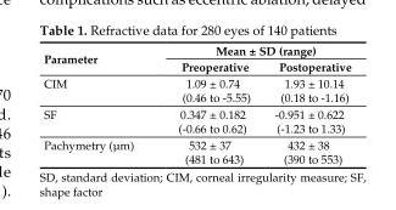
<table><thead><tr><td rowspan="2">Parameter</td><td colspan="2">Mean ± SD (range)</td></tr><tr><td>Preoperative</td><td>Postoperative</td></tr></thead><tbody><tr><td>CIM</td><td>1.09 ± 0.74 (0.46 to -5.55)</td><td>1.93 ± 10.14 (0.18 to -1.16)</td></tr><tr><td>SF</td><td>0.347 ± 0.182 (-0.66 to 0.62)</td><td>-0.951 ± 0.622 (-1.23 to 1.33)</td></tr><tr><td>Pachymetry (µm)</td><td>532 ± 37 (481 to 643)</td><td>432 ± 38 (390 to 553)</td></tr></tbody></table>